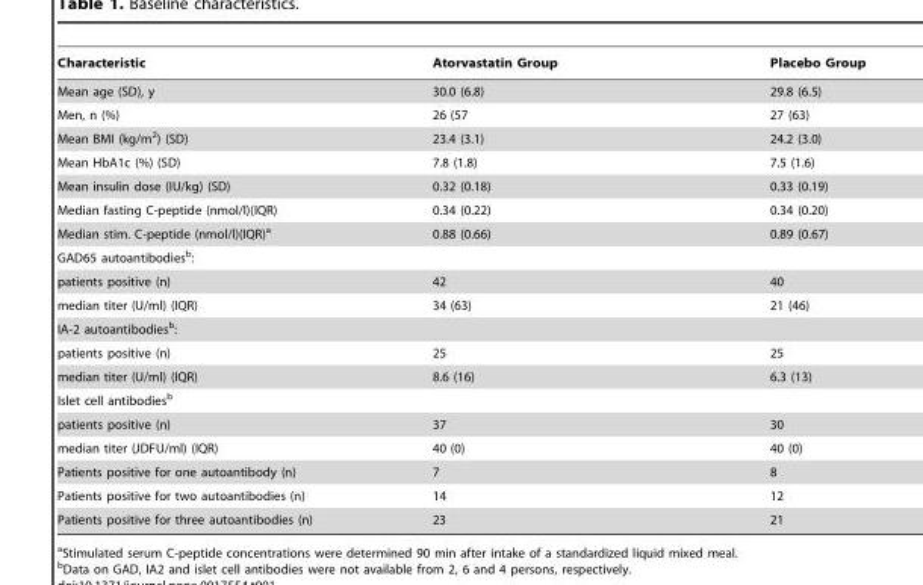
<table><thead><tr><td>Characteristic</td><td>Atorvastatin Group</td><td>Placebo Group</td></tr></thead><tbody><tr><td>Mean age (SD), y</td><td>30.0 (6.8)</td><td>29.8 (6.5)</td></tr><tr><td>Men, n (%)</td><td>26 (57</td><td>27 (63)</td></tr><tr><td>Mean BMI (kg/m<sup>2</sup>) (SD)</td><td>23.4 (3.1)</td><td>24.2 (3.0)</td></tr><tr><td>Mean HbA1c (%) (SD)</td><td>7.8 (1.8)</td><td>7.5 (1.6)</td></tr><tr><td>Mean insulin dose (IU/kg) (SD)</td><td>0.32 (0.18)</td><td>0.33 (0.19)</td></tr><tr><td>Median fasting C-peptide (nmol/l)(IQR)</td><td>0.34 (0.22)</td><td>0.34 (0.20)</td></tr><tr><td>Median stim. C-peptide (nmol/l)(IQR)<sup>a</sup></td><td>0.88 (0.66)</td><td>0.89 (0.67)</td></tr><tr><td colspan="3">GAD65 autoantibodies<sup>b</sup>:</td></tr><tr><td>patients positive (n)</td><td>42</td><td>40</td></tr><tr><td>median titer (U/ml) (IQR)</td><td>34 (63)</td><td>21 (46)</td></tr><tr><td colspan="3">IA-2 autoantibodies<sup>b</sup>:</td></tr><tr><td>patients positive (n)</td><td>25</td><td>25</td></tr><tr><td>median titer (U/ml) (IQR)</td><td>8.6 (16)</td><td>6.3 (13)</td></tr><tr><td colspan="3">Islet cell antibodies<sup>b</sup></td></tr><tr><td>patients positive (n)</td><td>37</td><td>30</td></tr><tr><td>median titer (JDFU/ml) (IQR)</td><td>40 (0)</td><td>40 (0)</td></tr><tr><td>Patients positive for one autoantibody (n)</td><td>7</td><td>8</td></tr><tr><td>Patients positive for two autoantibodies (n)</td><td>14</td><td>12</td></tr><tr><td>Patients positive for three autoantibodies (n)</td><td>23</td><td>21</td></tr></tbody></table>